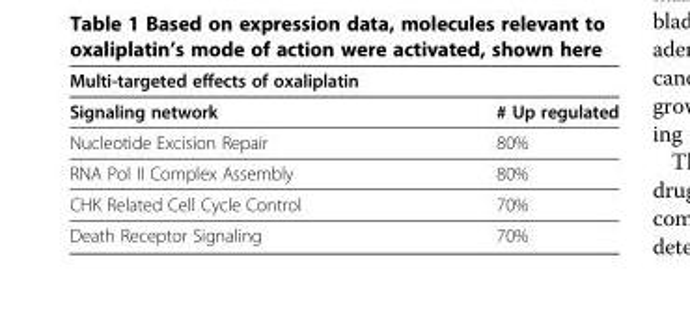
<table><thead><tr><td colspan="2">Multi-targeted effects of oxaliplatin</td></tr><tr><td>Signaling network</td><td># Up regulated</td></tr></thead><tbody><tr><td>Nucleotide Excision Repair</td><td>80%</td></tr><tr><td>RNA Pol II Complex Assembly</td><td>80%</td></tr><tr><td>CHK Related Cell Cycle Control</td><td>70%</td></tr><tr><td>Death Receptor Signaling</td><td>70%</td></tr></tbody></table>